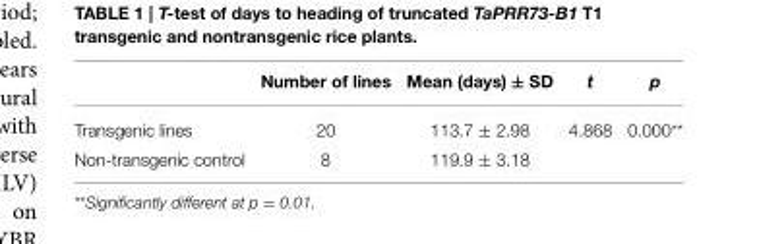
<table><thead><tr><td></td><td>Number of lines</td><td>Mean (days) ± SD</td><td>t</td><td>p</td></tr></thead><tbody><tr><td>Transgenic lines</td><td>20</td><td>113.7 ± 2.98</td><td>4.868</td><td>0.000**</td></tr><tr><td>Non-transgenic control</td><td>8</td><td>119.9 ± 3.18</td><td></td><td></td></tr></tbody></table>